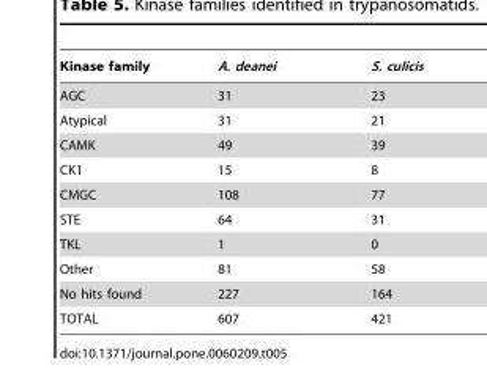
<table><thead><tr><td>Kinase family</td><td>A. deanei</td><td>S. culicis</td></tr></thead><tbody><tr><td>AGC</td><td>31</td><td>23</td></tr><tr><td>Atypical</td><td>31</td><td>21</td></tr><tr><td>CAMK</td><td>49</td><td>39</td></tr><tr><td>CK1</td><td>15</td><td>8</td></tr><tr><td>CMGC</td><td>108</td><td>77</td></tr><tr><td>STE</td><td>64</td><td>31</td></tr><tr><td>TKL</td><td>1</td><td>0</td></tr><tr><td>Other</td><td>81</td><td>58</td></tr><tr><td>No hits found</td><td>227</td><td>164</td></tr><tr><td>TOTAL</td><td>607</td><td>421</td></tr></tbody></table>